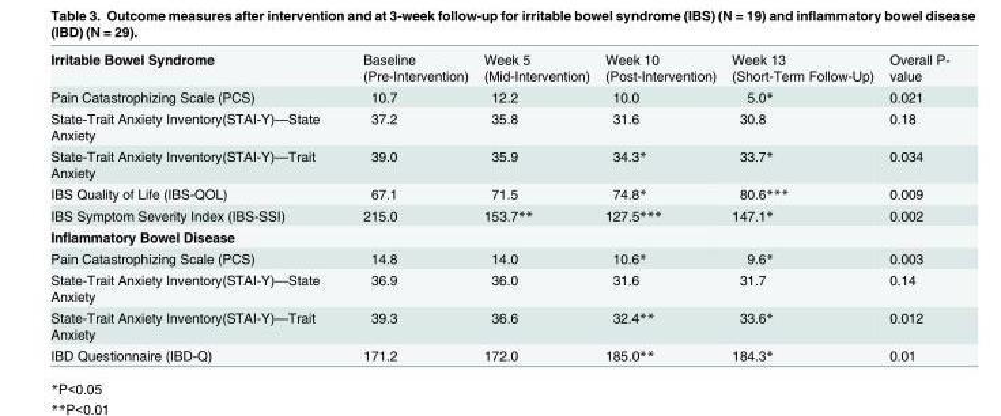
<table><tbody><tr><td>Irritable Bowel Syndrome</td><td>Baseline (Pre-Intervention)</td><td>Week 5 (Mid-Intervention)</td><td>Week 10 (Post-Intervention)</td><td>Week 13 (Short-Term Follow-Up)</td><td>Overall P- value</td></tr><tr><td>Pain Catastrophizing Scale (PCS)</td><td>10.7</td><td>12.2</td><td>10.0</td><td>5.0*</td><td>0.021</td></tr><tr><td>State-Trait Anxiety Inventory(STAI-Y)—State Anxiety</td><td>37.2</td><td>35.8</td><td>31.6</td><td>30.8</td><td>0.18</td></tr><tr><td>State-Trait Anxiety Inventory(STAI-Y)—Trait Anxiety</td><td>39.0</td><td>35.9</td><td>34.3*</td><td>33.7*</td><td>0.034</td></tr><tr><td>IBS Quality of Life (IBS-QOL)</td><td>67.1</td><td>71.5</td><td>74.8*</td><td>80.6***</td><td>0.009</td></tr><tr><td>IBS Symptom Severity Index (IBS-SSI)</td><td>215.0</td><td>153.7**</td><td>127.5***</td><td>147.1*</td><td>0.002</td></tr><tr><td colspan="6">Inflammatory Bowel Disease</td></tr><tr><td>Pain Catastrophizing Scale (PCS)</td><td>14.8</td><td>14.0</td><td>10.6*</td><td>9.6*</td><td>0.003</td></tr><tr><td>State-Trait Anxiety Inventory(STAI-Y)—State Anxiety</td><td>36.9</td><td>36.0</td><td>31.6</td><td>31.7</td><td>0.14</td></tr><tr><td>State-Trait Anxiety Inventory(STAI-Y)—Trait Anxiety</td><td>39.3</td><td>36.6</td><td>32.4**</td><td>33.6*</td><td>0.012</td></tr><tr><td>IBD Questionnaire (IBD-Q)</td><td>171.2</td><td>172.0</td><td>185.0**</td><td>184.3*</td><td>0.01</td></tr></tbody></table>